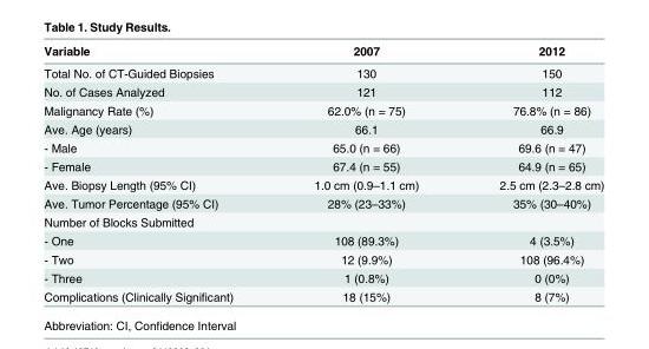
<table><thead><tr><td>Variable</td><td>2007</td><td>2012</td></tr></thead><tbody><tr><td>Total No. of CT-Guided Biopsies</td><td>130</td><td>150</td></tr><tr><td>No. of Cases Analyzed</td><td>121</td><td>112</td></tr><tr><td>Malignancy Rate (%)</td><td>62.0% (n = 75)</td><td>76.8% (n = 86)</td></tr><tr><td>Ave. Age (years)</td><td>66.1</td><td>66.9</td></tr><tr><td>- Male</td><td>65.0 (n = 66)</td><td>69.6 (n = 47)</td></tr><tr><td>- Female</td><td>67.4 (n = 55)</td><td>64.9 (n = 65)</td></tr><tr><td>Ave. Biopsy Length (95% CI)</td><td>1.0 cm (0.9–1.1 cm)</td><td>2.5 cm (2.3–2.8 cm)</td></tr><tr><td>Ave. Tumor Percentage (95% CI)</td><td>28% (23–33%)</td><td>35% (30–40%)</td></tr><tr><td colspan="3">Number of Blocks Submitted</td></tr><tr><td>- One</td><td>108 (89.3%)</td><td>4 (3.5%)</td></tr><tr><td>- Two</td><td>12 (9.9%)</td><td>108 (96.4%)</td></tr><tr><td>- Three</td><td>1 (0.8%)</td><td>0 (0%)</td></tr><tr><td>Complications (Clinically Significant)</td><td>18 (15%)</td><td>8 (7%)</td></tr></tbody></table>